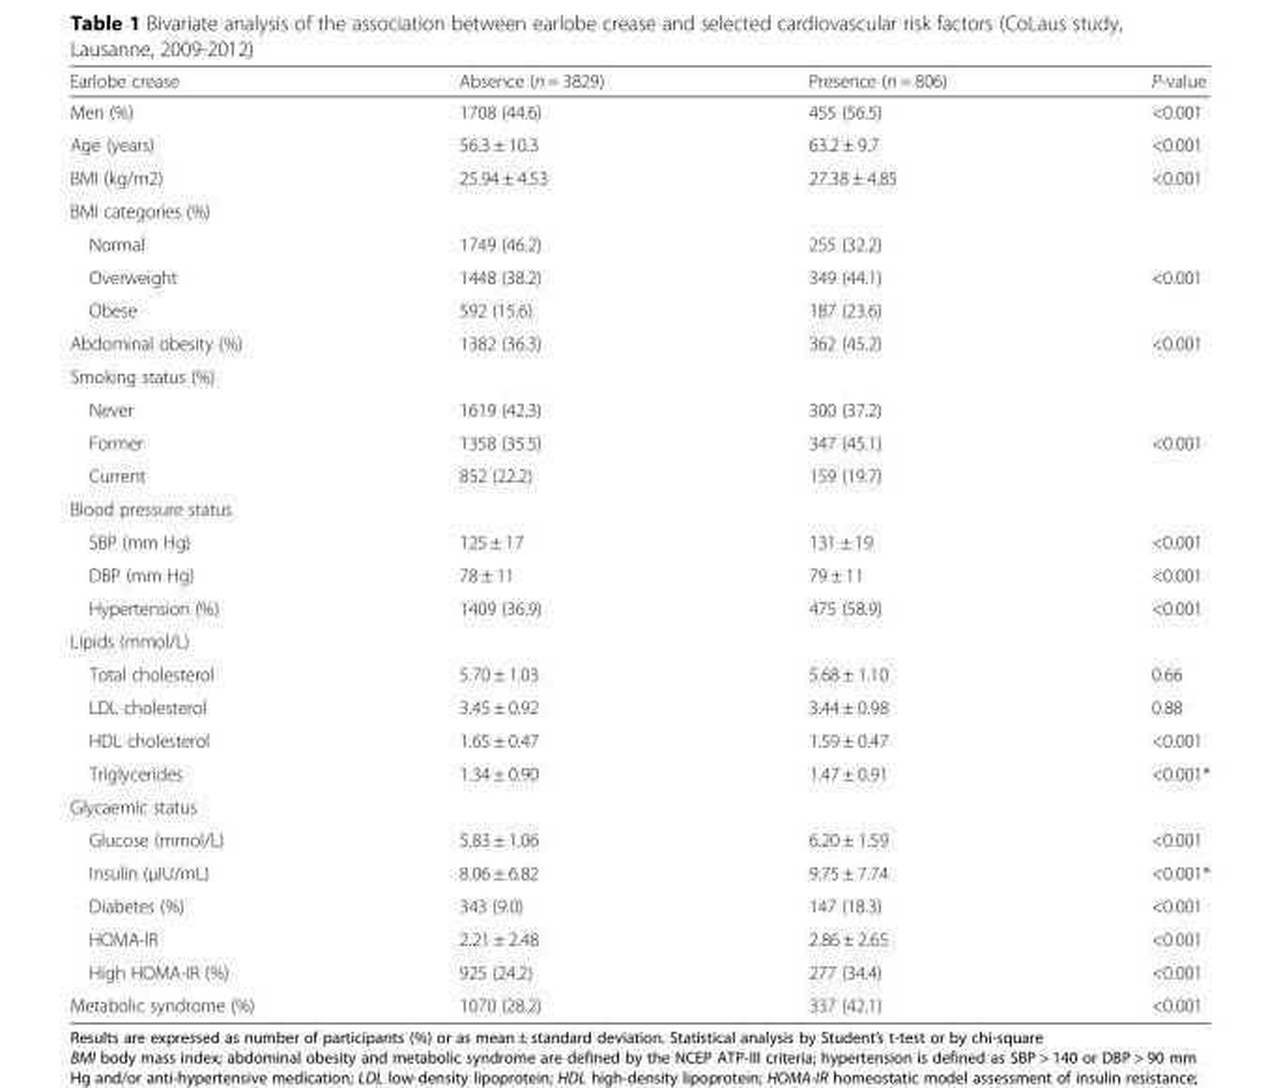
<table><thead><tr><td>Earlobe crease</td><td>Absence (n = 3829)</td><td>Presence (n = 806)</td><td>P-value</td></tr></thead><tbody><tr><td>Men (%)</td><td>1708 (44.6)</td><td>455 (56.5)</td><td>&lt;0.001</td></tr><tr><td>Age (years)</td><td>56.3 ± 10.3</td><td>63.2 ± 9.7</td><td>&lt;0.001</td></tr><tr><td>BMI (kg/m2)</td><td>25.94 ± 4.53</td><td>27.38 ± 4.85</td><td>&lt;0.001</td></tr><tr><td colspan="4">BMI categories (%)</td></tr><tr><td>Normal</td><td>1749 (46.2)</td><td>255 (32.2)</td><td></td></tr><tr><td>Overweight</td><td>1448 (38.2)</td><td>349 (44.1)</td><td>&lt;0.001</td></tr><tr><td>Obese</td><td>592 (15.6)</td><td>187 (23.6)</td><td></td></tr><tr><td>Abdominal obesity (%)</td><td>1382 (36.3)</td><td>362 (45.2)</td><td>&lt;0.001</td></tr><tr><td colspan="4">Smoking status (%)</td></tr><tr><td>Never</td><td>1619 (42.3)</td><td>300 (37.2)</td><td></td></tr><tr><td>Former</td><td>1358 (35.5)</td><td>347 (45.1)</td><td>&lt;0.001</td></tr><tr><td>Current</td><td>852 (22.2)</td><td>159 (19.7)</td><td></td></tr><tr><td colspan="4">Blood pressure status</td></tr><tr><td>SBP (mm Hg)</td><td>125 ± 17</td><td>131 ± 19</td><td>&lt;0.001</td></tr><tr><td>DBP (mm Hg)</td><td>78 ± 11</td><td>79 ± 11</td><td>&lt;0.001</td></tr><tr><td>Hypertension (%)</td><td>1409 (36.9)</td><td>475 (58.9)</td><td>&lt;0.001</td></tr><tr><td colspan="4">Lipids (mmol/L)</td></tr><tr><td>Total cholesterol</td><td>5.70 ± 1.03</td><td>5.68 ± 1.10</td><td>0.66</td></tr><tr><td>LDL cholesterol</td><td>3.45 ± 0.92</td><td>3.44 ± 0.98</td><td>0.88</td></tr><tr><td>HDL cholesterol</td><td>1.65 ± 0.47</td><td>1.59 ± 0.47</td><td>&lt;0.001</td></tr><tr><td>Triglycerides</td><td>1.34 ± 0.90</td><td>1.47 ± 0.91</td><td>&lt;0.001*</td></tr><tr><td colspan="4">Glycaemic status</td></tr><tr><td>Glucose (mmol/L)</td><td>5.83 ± 1.06</td><td>6.20 ± 1.59</td><td>&lt;0.001</td></tr><tr><td>Insulin (μIU/mL)</td><td>8.06 ± 6.82</td><td>9.75 ± 7.74</td><td>&lt;0.001*</td></tr><tr><td>Diabetes (%)</td><td>343 (9.0)</td><td>147 (18.3)</td><td>&lt;0.001</td></tr><tr><td>HOMA-IR</td><td>2.21 ± 2.48</td><td>2.86 ± 2.65</td><td>&lt;0.001</td></tr><tr><td>High HOMA-IR (%)</td><td>925 (24.2)</td><td>277 (34.4)</td><td>&lt;0.001</td></tr><tr><td>Metabolic syndrome (%)</td><td>1070 (28.2)</td><td>337 (42.1)</td><td>&lt;0.001</td></tr></tbody></table>